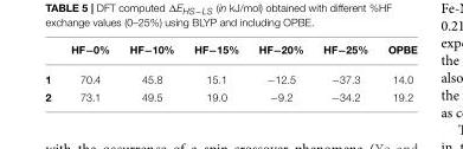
<table><thead><tr><td></td><td>HF−0%</td><td>HF−10%</td><td>HF−15%</td><td>HF−20%</td><td>HF−25%</td><td>OPBE</td></tr></thead><tbody><tr><td>1</td><td>70.4</td><td>45.8</td><td>15.1</td><td>−12.5</td><td>−37.3</td><td>14.0</td></tr><tr><td>2</td><td>73.1</td><td>49.5</td><td>19.0</td><td>−9.2</td><td>−34.2</td><td>19.2</td></tr></tbody></table>